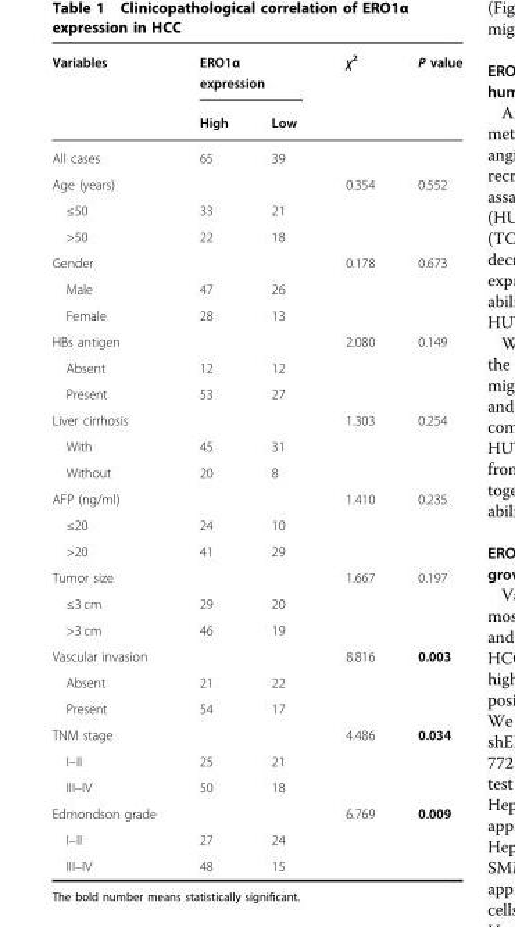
<table><thead><tr><td rowspan="2">Variables</td><td colspan="2">ERO1α expression</td><td rowspan="2">χ<sup>2</sup></td><td rowspan="2">P value</td></tr><tr><td>High</td><td>Low</td></tr></thead><tbody><tr><td>All cases</td><td>65</td><td>39</td><td></td><td></td></tr><tr><td>Age (years)</td><td></td><td></td><td>0.354</td><td>0.552</td></tr><tr><td>≤50</td><td>33</td><td>21</td><td></td><td></td></tr><tr><td>&gt;50</td><td>22</td><td>18</td><td></td><td></td></tr><tr><td>Gender</td><td></td><td></td><td>0.178</td><td>0.673</td></tr><tr><td>Male</td><td>47</td><td>26</td><td></td><td></td></tr><tr><td>Female</td><td>28</td><td>13</td><td></td><td></td></tr><tr><td>HBs antigen</td><td></td><td></td><td>2.080</td><td>0.149</td></tr><tr><td>Absent</td><td>12</td><td>12</td><td></td><td></td></tr><tr><td>Present</td><td>53</td><td>27</td><td></td><td></td></tr><tr><td>Liver cirrhosis</td><td></td><td></td><td>1.303</td><td>0.254</td></tr><tr><td>With</td><td>45</td><td>31</td><td></td><td></td></tr><tr><td>Without</td><td>20</td><td>8</td><td></td><td></td></tr><tr><td>AFP (ng/ml)</td><td></td><td></td><td>1.410</td><td>0.235</td></tr><tr><td>≤20</td><td>24</td><td>10</td><td></td><td></td></tr><tr><td>&gt;20</td><td>41</td><td>29</td><td></td><td></td></tr><tr><td>Tumor size</td><td></td><td></td><td>1.667</td><td>0.197</td></tr><tr><td>≤3 cm</td><td>29</td><td>20</td><td></td><td></td></tr><tr><td>&gt;3 cm</td><td>46</td><td>19</td><td></td><td></td></tr><tr><td>Vascular invasion</td><td></td><td></td><td>8.816</td><td>0.003</td></tr><tr><td>Absent</td><td>21</td><td>22</td><td></td><td></td></tr><tr><td>Present</td><td>54</td><td>17</td><td></td><td></td></tr><tr><td>TNM stage</td><td></td><td></td><td>4.486</td><td>0.034</td></tr><tr><td>I–II</td><td>25</td><td>21</td><td></td><td></td></tr><tr><td>III–IV</td><td>50</td><td>18</td><td></td><td></td></tr><tr><td>Edmondson grade</td><td></td><td></td><td>6.769</td><td>0.009</td></tr><tr><td>I–II</td><td>27</td><td>24</td><td></td><td></td></tr><tr><td>III–IV</td><td>48</td><td>15</td><td></td><td></td></tr></tbody></table>